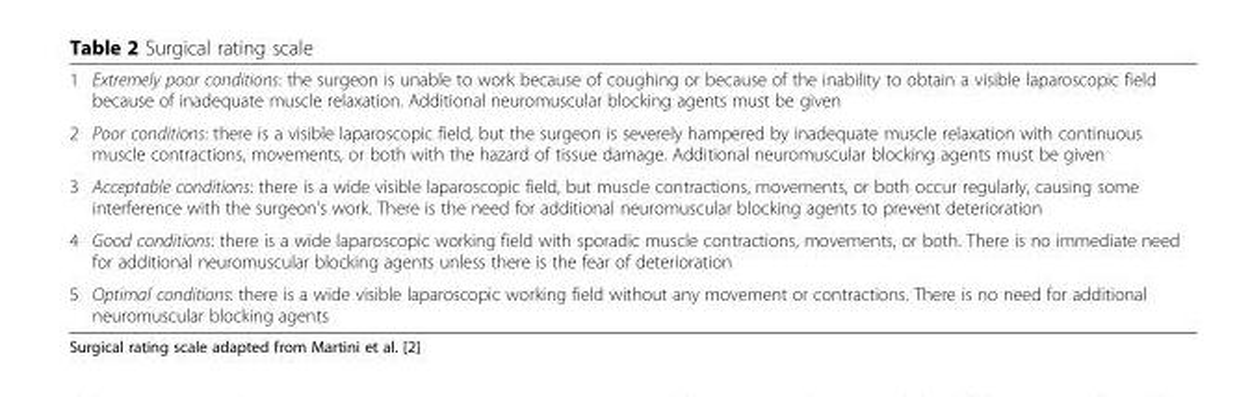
<table><tbody><tr><td>1</td><td>Extremely poor conditions: the surgeon is unable to work because of coughing or because of the inability to obtain a visible laparoscopic field because of inadequate muscle relaxation. Additional neuromuscular blocking agents must be given</td></tr><tr><td>2</td><td>Poor conditions: there is a visible laparoscopic field, but the surgeon is severely hampered by inadequate muscle relaxation with continuous muscle contractions, movements, or both with the hazard of tissue damage. Additional neuromuscular blocking agents must be given</td></tr><tr><td>3</td><td>Acceptable conditions: there is a wide visible laparoscopic field, but muscle contractions, movements, or both occur regularly, causing some interference with the surgeon’s work. There is the need for additional neuromuscular blocking agents to prevent deterioration</td></tr><tr><td>4</td><td>Good conditions: there is a wide laparoscopic working field with sporadic muscle contractions, movements, or both. There is no immediate need for additional neuromuscular blocking agents unless there is the fear of deterioration</td></tr><tr><td>5</td><td>Optimal conditions: there is a wide visible laparoscopic working field without any movement or contractions. There is no need for additional neuromuscular blocking agents</td></tr></tbody></table>